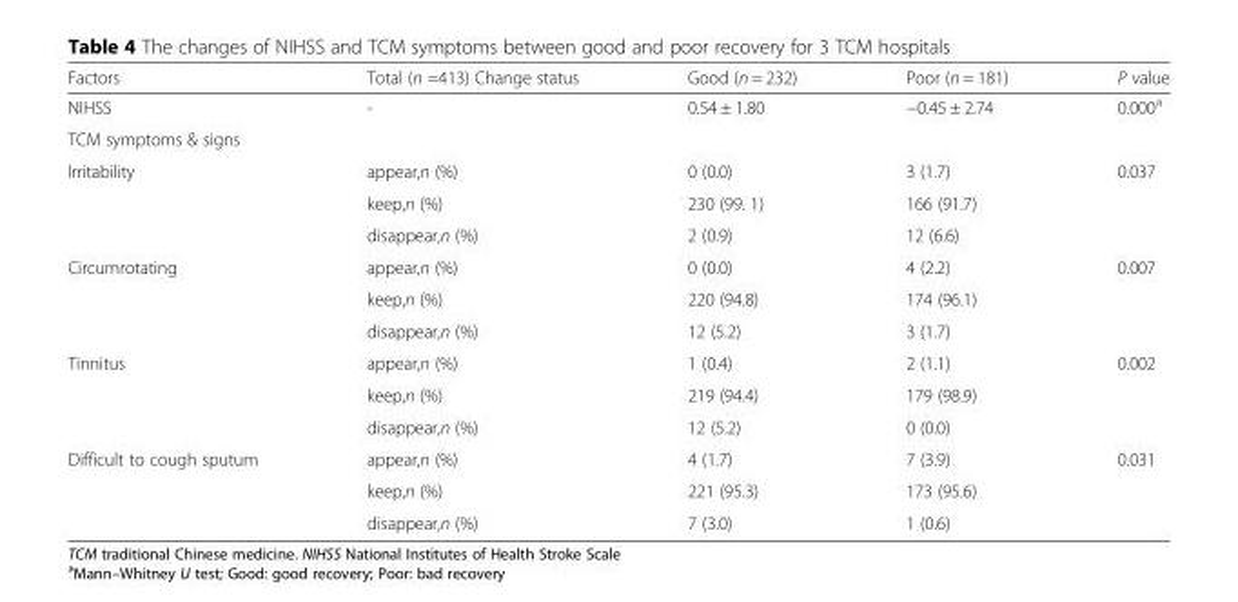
<table><thead><tr><td>Factors</td><td>Total (n =413) Change status</td><td>Good (n = 232)</td><td>Poor (n = 181)</td><td>P value</td></tr></thead><tbody><tr><td>NIHSS</td><td>-</td><td>0.54 ± 1.80</td><td>−0.45 ± 2.74</td><td>0.000<sup>a</sup></td></tr><tr><td colspan="5">TCM symptoms &amp; signs</td></tr><tr><td rowspan="3">Irritability</td><td>appear,n (%)</td><td>0 (0.0)</td><td>3 (1.7)</td><td>0.037</td></tr><tr><td>keep,n (%)</td><td>230 (99. 1)</td><td>166 (91.7)</td><td></td></tr><tr><td>disappear,n (%)</td><td>2 (0.9)</td><td>12 (6.6)</td><td></td></tr><tr><td rowspan="3">Circumrotating</td><td>appear,n (%)</td><td>0 (0.0)</td><td>4 (2.2)</td><td>0.007</td></tr><tr><td>keep,n (%)</td><td>220 (94.8)</td><td>174 (96.1)</td><td></td></tr><tr><td>disappear,n (%)</td><td>12 (5.2)</td><td>3 (1.7)</td><td></td></tr><tr><td rowspan="3">Tinnitus</td><td>appear,n (%)</td><td>1 (0.4)</td><td>2 (1.1)</td><td>0.002</td></tr><tr><td>keep,n (%)</td><td>219 (94.4)</td><td>179 (98.9)</td><td></td></tr><tr><td>disappear,n (%)</td><td>12 (5.2)</td><td>0 (0.0)</td><td></td></tr><tr><td rowspan="3">Difficult to cough sputum</td><td>appear,n (%)</td><td>4 (1.7)</td><td>7 (3.9)</td><td>0.031</td></tr><tr><td>keep,n (%)</td><td>221 (95.3)</td><td>173 (95.6)</td><td></td></tr><tr><td>disappear,n (%)</td><td>7 (3.0)</td><td>1 (0.6)</td><td></td></tr></tbody></table>